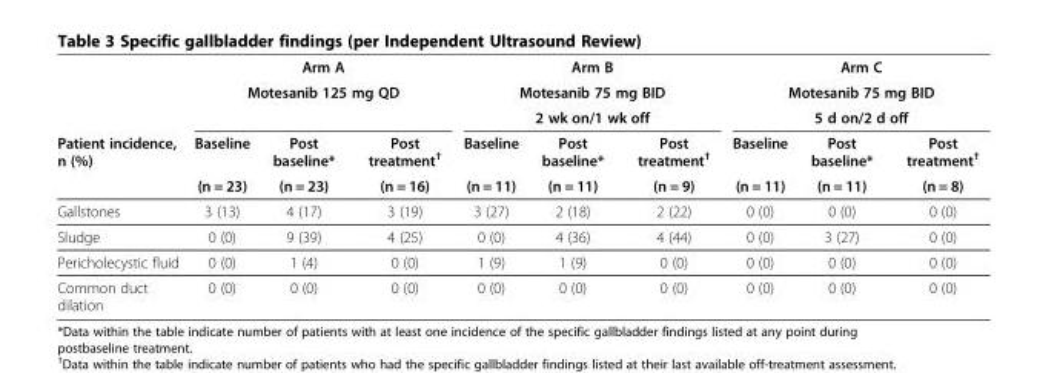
<table><thead><tr><td rowspan="5">Patient incidence, n (%)</td><td rowspan="2" colspan="3">Arm A Motesanib 125 mg QD</td><td rowspan="3" colspan="3">Arm B Motesanib 75 mg BID 2 wk on/1 wk off</td><td rowspan="3" colspan="3">Arm C Motesanib 75 mg BID 5 d on/2 d off</td></tr><tr></tr><tr><td rowspan="3">Baseline (n = 23)</td><td rowspan="3">Post baseline* (n = 23)</td><td rowspan="3">Post treatment<sup>†</sup> (n = 16)</td></tr><tr><td rowspan="2">Baseline (n = 11)</td><td rowspan="2">Post baseline* (n = 11)</td><td rowspan="2">Post treatment<sup>†</sup> (n = 9)</td><td rowspan="2">Baseline (n = 11)</td><td rowspan="2">Post baseline* (n = 11)</td><td rowspan="2">Post treatment<sup>†</sup> (n = 8)</td></tr><tr></tr></thead><tbody><tr><td>Gallstones</td><td>3 (13)</td><td>4 (17)</td><td>3 (19)</td><td>3 (27)</td><td>2 (18)</td><td>2 (22)</td><td>0 (0)</td><td>0 (0)</td><td>0 (0)</td></tr><tr><td>Sludge</td><td>0 (0)</td><td>9 (39)</td><td>4 (25)</td><td>0 (0)</td><td>4 (36)</td><td>4 (44)</td><td>0 (0)</td><td>3 (27)</td><td>0 (0)</td></tr><tr><td>Pericholecystic fluid</td><td>0 (0)</td><td>1 (4)</td><td>0 (0)</td><td>1 (9)</td><td>1 (9)</td><td>0 (0)</td><td>0 (0)</td><td>0 (0)</td><td>0 (0)</td></tr><tr><td>Common duct dilation</td><td>0 (0)</td><td>0 (0)</td><td>0 (0)</td><td>0 (0)</td><td>0 (0)</td><td>0 (0)</td><td>0 (0)</td><td>0 (0)</td><td>0 (0)</td></tr></tbody></table>